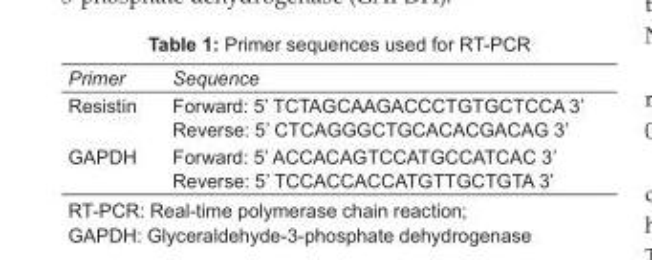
<table><tbody><tr><td>Primer</td><td>Sequence</td></tr><tr><td rowspan="2">Resistin</td><td>Forward: 5’ TCTAGCAAGACCCTGTGCTCCA 3’</td></tr><tr><td>Reverse: 5’ CTCAGGGCTGCACACGACAG 3’</td></tr><tr><td rowspan="2">GAPDH</td><td>Forward: 5’ ACCACAGTCCATGCCATCAC 3’</td></tr><tr><td>Reverse: 5’ TCCACCACCATGTTGCTGTA 3’</td></tr></tbody></table>